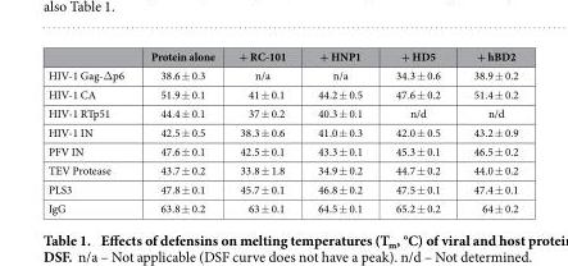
<table><thead><tr><td></td><td>Protein alone</td><td>+ RC-101</td><td>+ HNP1</td><td>+ HD5</td><td>+ hBD2</td></tr></thead><tbody><tr><td>HIV-1 Gag-Δ p6</td><td>38.6 ± 0.3</td><td>n/a</td><td>n/a</td><td>34.3 ± 0.6</td><td>38.9 ± 0.2</td></tr><tr><td>HIV-1 CA</td><td>51.9 ± 0.1</td><td>41 ± 0.1</td><td>44.2 ± 0.5</td><td>47.6 ± 0.2</td><td>51.4 ± 0.2</td></tr><tr><td>HIV-1 RTp51</td><td>44.4 ± 0.1</td><td>37 ± 0.2</td><td>40.3 ± 0.1</td><td>n/d</td><td>n/d</td></tr><tr><td>HIV-1 IN</td><td>42.5 ± 0.5</td><td>38.3 ± 0.6</td><td>41.0 ± 0.3</td><td>42.0 ± 0.5</td><td>43.2 ± 0.9</td></tr><tr><td>PFV IN</td><td>47.6 ± 0.1</td><td>42.5 ± 0.1</td><td>43.3 ± 0.1</td><td>45.3 ± 0.1</td><td>46.5 ± 0.2</td></tr><tr><td>TEV Protease</td><td>43.7 ± 0.2</td><td>33.8 ± 1.8</td><td>34.9 ± 0.2</td><td>44.7 ± 0.2</td><td>44.0 ± 0.2</td></tr><tr><td>PLS3</td><td>47.8 ± 0.1</td><td>45.7 ± 0.1</td><td>46.8 ± 0.2</td><td>47.5 ± 0.1</td><td>47.4 ± 0.1</td></tr><tr><td>IgG</td><td>63.8 ± 0.2</td><td>63 ± 0.1</td><td>64.5 ± 0.1</td><td>65.2 ± 0.2</td><td>64 ± 0.2</td></tr></tbody></table>